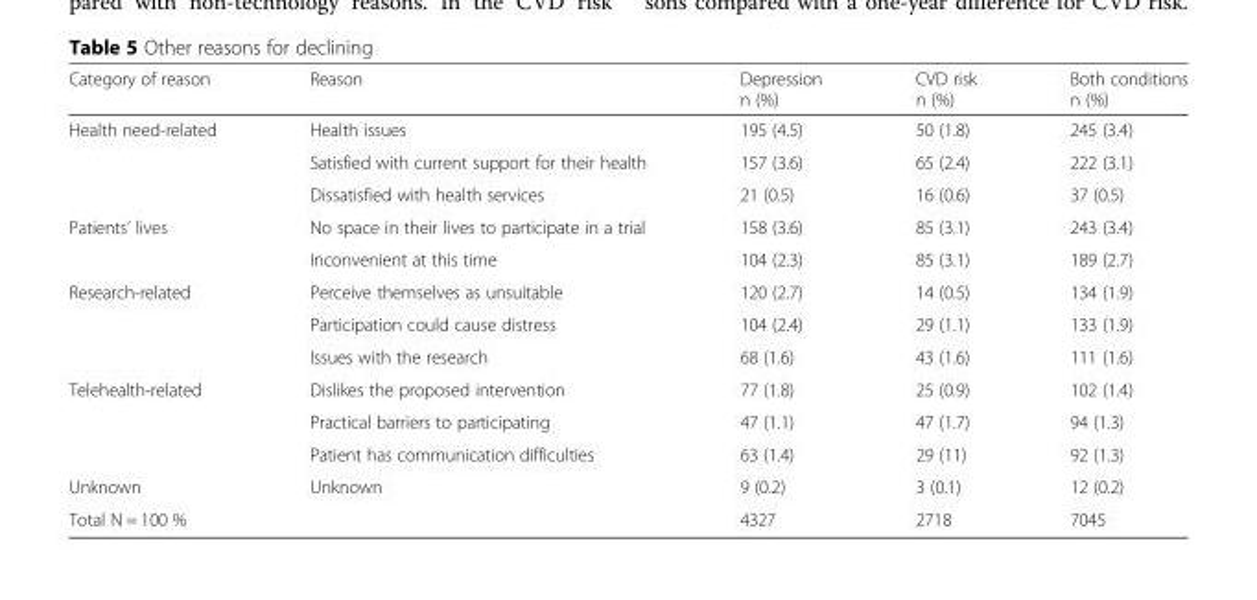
<table><thead><tr><td>Category of reason</td><td>Reason</td><td>Depression n (%)</td><td>CVD risk n (%)</td><td>Both conditions n (%)</td></tr></thead><tbody><tr><td rowspan="3">Health need-related</td><td>Health issues</td><td>195 (4.5)</td><td>50 (1.8)</td><td>245 (3.4)</td></tr><tr><td>Satisfied with current support for their health</td><td>157 (3.6)</td><td>65 (2.4)</td><td>222 (3.1)</td></tr><tr><td>Dissatisfied with health services</td><td>21 (0.5)</td><td>16 (0.6)</td><td>37 (0.5)</td></tr><tr><td rowspan="2">Patients’ lives</td><td>No space in their lives to participate in a trial</td><td>158 (3.6)</td><td>85 (3.1)</td><td>243 (3.4)</td></tr><tr><td>Inconvenient at this time</td><td>104 (2.3)</td><td>85 (3.1)</td><td>189 (2.7)</td></tr><tr><td rowspan="3">Research-related</td><td>Perceive themselves as unsuitable</td><td>120 (2.7)</td><td>14 (0.5)</td><td>134 (1.9)</td></tr><tr><td>Participation could cause distress</td><td>104 (2.4)</td><td>29 (1.1)</td><td>133 (1.9)</td></tr><tr><td>Issues with the research</td><td>68 (1.6)</td><td>43 (1.6)</td><td>111 (1.6)</td></tr><tr><td rowspan="3">Telehealth-related</td><td>Dislikes the proposed intervention</td><td>77 (1.8)</td><td>25 (0.9)</td><td>102 (1.4)</td></tr><tr><td>Practical barriers to participating</td><td>47 (1.1)</td><td>47 (1.7)</td><td>94 (1.3)</td></tr><tr><td>Patient has communication difficulties</td><td>63 (1.4)</td><td>29 (11)</td><td>92 (1.3)</td></tr><tr><td>Unknown</td><td>Unknown</td><td>9 (0.2)</td><td>3 (0.1)</td><td>12 (0.2)</td></tr><tr><td>Total N = 100 %</td><td></td><td>4327</td><td>2718</td><td>7045</td></tr></tbody></table>